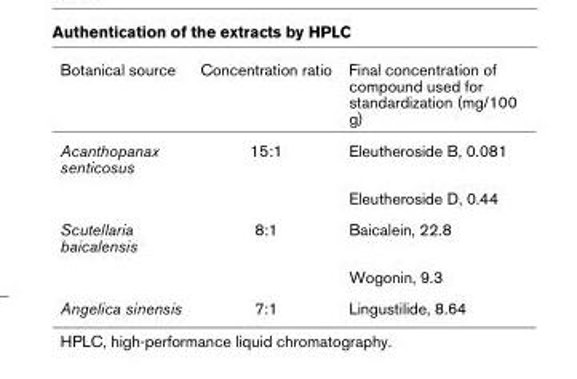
<table><thead><tr><td>Botanical source</td><td>Concentration ratio</td><td>Final concentration of compound used for standardization (mg/100 g)</td></tr></thead><tbody><tr><td rowspan="2">Acanthopanax senticosus</td><td>15:1</td><td>Eleutheroside B, 0.081</td></tr><tr><td></td><td>Eleutheroside D, 0.44</td></tr><tr><td rowspan="2">Scutellaria baicalensis</td><td>8:1</td><td>Baicalein, 22.8</td></tr><tr><td></td><td>Wogonin, 9.3</td></tr><tr><td>Angelica sinensis</td><td>7:1</td><td>Lingustilide, 8.64</td></tr></tbody></table>